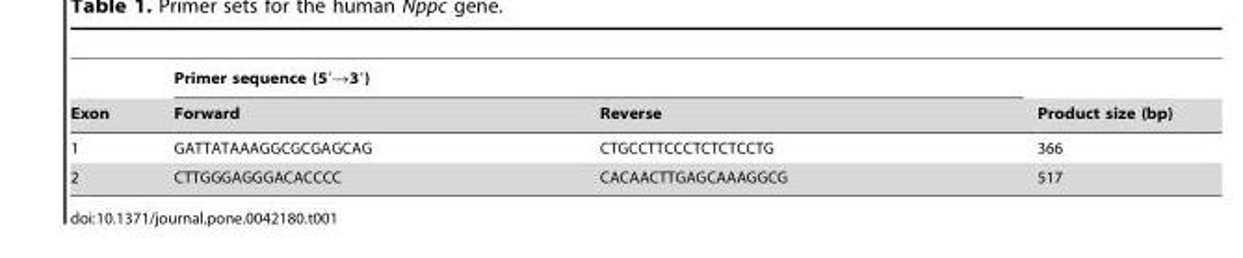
<table><thead><tr><td rowspan="2">Exon</td><td colspan="2">Primer sequence (5′→3′)</td><td rowspan="2">Product size (bp)</td></tr><tr><td>Forward</td><td>Reverse</td></tr></thead><tbody><tr><td>1</td><td>GATTATAAAGGCGCGAGCAG</td><td>CTGCCTTCCCTCTCTCCTG</td><td>366</td></tr><tr><td>2</td><td>CTTGGGAGGGACACCCC</td><td>CACAACTTGAGCAAAGGCG</td><td>517</td></tr></tbody></table>